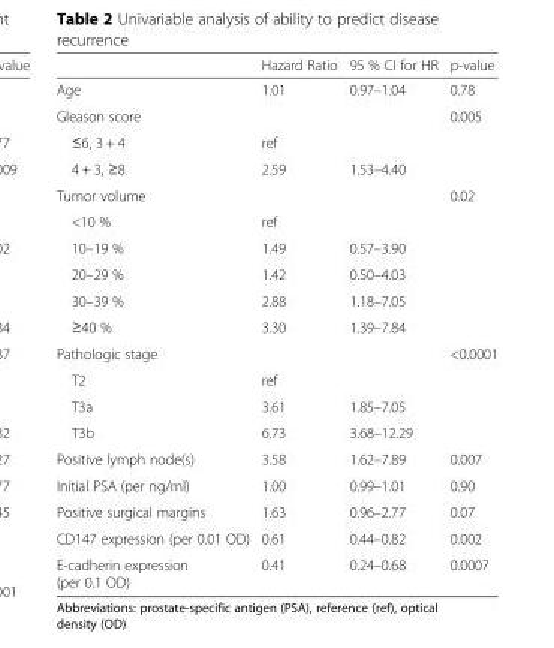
<table><thead><tr><td></td><td>Hazard Ratio</td><td>95 % CI for HR</td><td>p-value</td></tr></thead><tbody><tr><td>Age</td><td>1.01</td><td>0.97–1.04</td><td>0.78</td></tr><tr><td>Gleason score</td><td></td><td></td><td>0.005</td></tr><tr><td>≤6, 3 + 4</td><td>ref</td><td></td><td></td></tr><tr><td>4 + 3, ≥8</td><td>2.59</td><td>1.53–4.40</td><td></td></tr><tr><td>Tumor volume</td><td></td><td></td><td>0.02</td></tr><tr><td>&lt;10 %</td><td>ref</td><td></td><td></td></tr><tr><td>10–19 %</td><td>1.49</td><td>0.57–3.90</td><td></td></tr><tr><td>20–29 %</td><td>1.42</td><td>0.50–4.03</td><td></td></tr><tr><td>30–39 %</td><td>2.88</td><td>1.18–7.05</td><td></td></tr><tr><td>≥40 %</td><td>3.30</td><td>1.39–7.84</td><td></td></tr><tr><td>Pathologic stage</td><td></td><td></td><td>&lt;0.0001</td></tr><tr><td>T2</td><td>ref</td><td></td><td></td></tr><tr><td>T3a</td><td>3.61</td><td>1.85–7.05</td><td></td></tr><tr><td>T3b</td><td>6.73</td><td>3.68–12.29</td><td></td></tr><tr><td>Positive lymph node(s)</td><td>3.58</td><td>1.62–7.89</td><td>0.007</td></tr><tr><td>Initial PSA (per ng/ml)</td><td>1.00</td><td>0.99–1.01</td><td>0.90</td></tr><tr><td>Positive surgical margins</td><td>1.63</td><td>0.96–2.77</td><td>0.07</td></tr><tr><td>CD147 expression (per 0.01 OD)</td><td>0.61</td><td>0.44–0.82</td><td>0.002</td></tr><tr><td>E-cadherin expression (per 0.1 OD)</td><td>0.41</td><td>0.24–0.68</td><td>0.0007</td></tr></tbody></table>